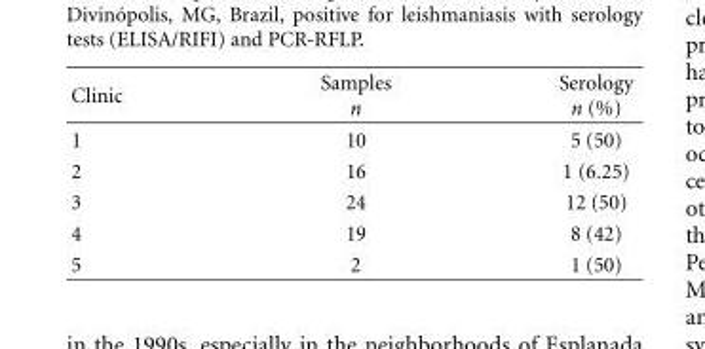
<table><thead><tr><td>Clinic</td><td>Samples n</td><td>Serology n (%)</td></tr></thead><tbody><tr><td>1</td><td>10</td><td>5 (50)</td></tr><tr><td>2</td><td>16</td><td>1 (6.25)</td></tr><tr><td>3</td><td>24</td><td>12 (50)</td></tr><tr><td>4</td><td>19</td><td>8 (42)</td></tr><tr><td>5</td><td>2</td><td>1 (50)</td></tr></tbody></table>